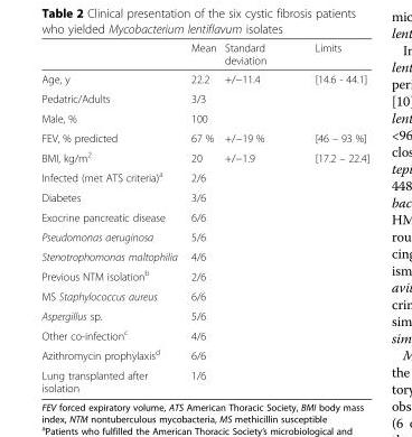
<table><thead><tr><td></td><td>Mean</td><td>Standard deviation</td><td>Limits</td></tr></thead><tbody><tr><td>Age, y</td><td>22.2</td><td>+/−11.4</td><td>[14.6 - 44.1]</td></tr><tr><td>Pedatric/Adults</td><td>3/3</td><td></td><td></td></tr><tr><td>Male, %</td><td>100</td><td></td><td></td></tr><tr><td>FEV, % predicted</td><td>67 %</td><td>+/−19 %</td><td>[46 – 93 %]</td></tr><tr><td>BMI, kg/m<sup>2</sup></td><td>20</td><td>+/−1.9</td><td>[17.2 – 22.4]</td></tr><tr><td>Infected (met ATS criteria)<sup>a</sup></td><td>2/6</td><td></td><td></td></tr><tr><td>Diabetes</td><td>3/6</td><td></td><td></td></tr><tr><td>Exocrine pancreatic disease</td><td>6/6</td><td></td><td></td></tr><tr><td>Pseudomonas aeruginosa</td><td>5/6</td><td></td><td></td></tr><tr><td>Stenotrophomonas maltophilia</td><td>4/6</td><td></td><td></td></tr><tr><td>Previous NTM isolation<sup>b</sup></td><td>2/6</td><td></td><td></td></tr><tr><td>MS Staphylococcus aureus</td><td>6/6</td><td></td><td></td></tr><tr><td>Aspergillus sp.</td><td>5/6</td><td></td><td></td></tr><tr><td>Other co-infection<sup>c</sup></td><td>4/6</td><td></td><td></td></tr><tr><td>Azithromycin prophylaxis<sup>d</sup></td><td>6/6</td><td></td><td></td></tr><tr><td>Lung transplanted after isolation</td><td>1/6</td><td></td><td></td></tr></tbody></table>